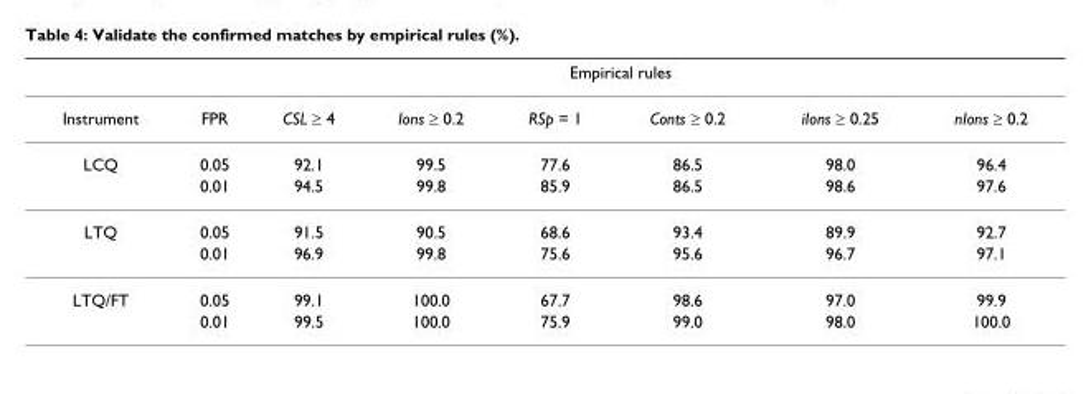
<table><thead><tr><td rowspan="2">Instrument</td><td colspan="7">Empirical rules</td></tr><tr><td>FPR</td><td>CSL ≥ 4</td><td>Ions ≥ 0.2</td><td>RSp = 1</td><td>Conts ≥ 0.2</td><td>iIons ≥ 0.25</td><td>nIons ≥ 0.2</td></tr></thead><tbody><tr><td rowspan="2">LCQ</td><td>0.05</td><td>92.1</td><td>99.5</td><td>77.6</td><td>86.5</td><td>98.0</td><td>96.4</td></tr><tr><td>0.01</td><td>94.5</td><td>99.8</td><td>85.9</td><td>86.5</td><td>98.6</td><td>97.6</td></tr><tr><td rowspan="2">LTQ</td><td>0.05</td><td>91.5</td><td>90.5</td><td>68.6</td><td>93.4</td><td>89.9</td><td>92.7</td></tr><tr><td>0.01</td><td>96.9</td><td>99.8</td><td>75.6</td><td>95.6</td><td>96.7</td><td>97.1</td></tr><tr><td rowspan="2">LTQ/FT</td><td>0.05</td><td>99.1</td><td>100.0</td><td>67.7</td><td>98.6</td><td>97.0</td><td>99.9</td></tr><tr><td>0.01</td><td>99.5</td><td>100.0</td><td>75.9</td><td>99.0</td><td>98.0</td><td>100.0</td></tr></tbody></table>